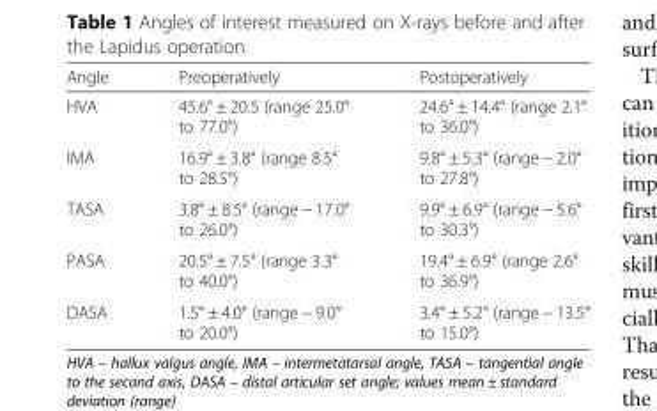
<table><thead><tr><td>Angle</td><td>Preoperatively</td><td>Postoperatively</td></tr></thead><tbody><tr><td>HVA</td><td>45.6° ± 20.5 (range 25.0° to 77.0°)</td><td>24.6° ± 14.4° (range 2.1° to 36.0°)</td></tr><tr><td>IMA</td><td>16.9° ± 3.8° (range 8.5° to 28.5°)</td><td>9.8° ± 5.3° (range − 2.0° to 27.8°)</td></tr><tr><td>TASA</td><td>3.8° ± 8.5° (range − 17.0° to 26.0°)</td><td>9.9° ± 6.9° (range − 5.6° to 30.3°)</td></tr><tr><td>PASA</td><td>20.5° ± 7.5° (range 3.3° to 40.0°)</td><td>19.4° ± 6.9° (range 2.6° to 36.9°)</td></tr><tr><td>DASA</td><td>1.5° ± 4.0° (range − 9.0° to 20.0°)</td><td>3.4° ± 5.2° (range − 13.5° to 15.0°)</td></tr></tbody></table>